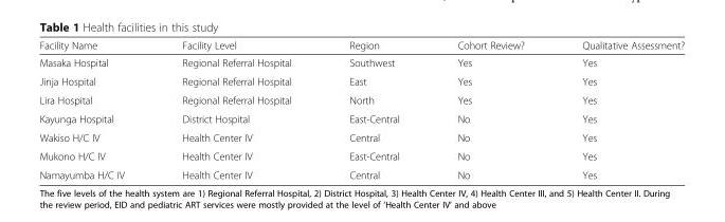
<table><thead><tr><td>Facility Name</td><td>Facility Level</td><td>Region</td><td>Cohort Review?</td><td>Qualitative Assessment?</td></tr></thead><tbody><tr><td>Masaka Hospital</td><td>Regional Referral Hospital</td><td>Southwest</td><td>Yes</td><td>Yes</td></tr><tr><td>Jinja Hospital</td><td>Regional Referral Hospital</td><td>East</td><td>Yes</td><td>Yes</td></tr><tr><td>Lira Hospital</td><td>Regional Referral Hospital</td><td>North</td><td>Yes</td><td>Yes</td></tr><tr><td>Kayunga Hospital</td><td>District Hospital</td><td>East-Central</td><td>No</td><td>Yes</td></tr><tr><td>Wakiso H/C IV</td><td>Health Center IV</td><td>Central</td><td>No</td><td>Yes</td></tr><tr><td>Mukono H/C IV</td><td>Health Center IV</td><td>East-Central</td><td>No</td><td>Yes</td></tr><tr><td>Namayumba H/C IV</td><td>Health Center IV</td><td>Central</td><td>No</td><td>Yes</td></tr></tbody></table>